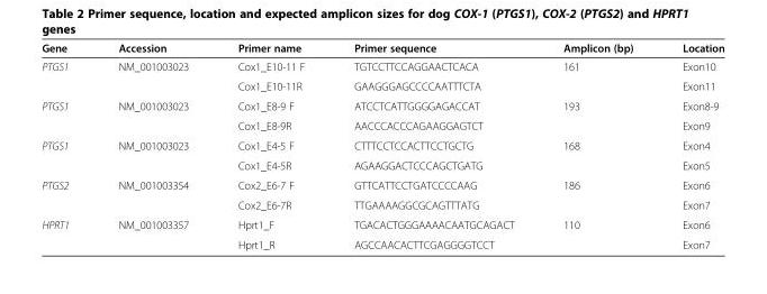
<table><thead><tr><td>Gene</td><td>Accession</td><td>Primer name</td><td>Primer sequence</td><td>Amplicon (bp)</td><td>Location</td></tr></thead><tbody><tr><td rowspan="2">PTGS1</td><td rowspan="2">NM_001003023</td><td>Cox1_E10-11 F</td><td>TGTCCTTCCAGGAACTCACA</td><td rowspan="2">161</td><td>Exon10</td></tr><tr><td>Cox1_E10-11R</td><td>GAAGGGAGCCCCAATTTCTA</td><td>Exon11</td></tr><tr><td rowspan="2">PTGS1</td><td rowspan="2">NM_001003023</td><td>Cox1_E8-9 F</td><td>ATCCTCATTGGGGAGACCAT</td><td rowspan="2">193</td><td>Exon8-9</td></tr><tr><td>Cox1_E8-9R</td><td>AACCCACCCAGAAGGAGTCT</td><td>Exon9</td></tr><tr><td rowspan="2">PTGS1</td><td rowspan="2">NM_001003023</td><td>Cox1_E4-5 F</td><td>CTTTCCTCCACTTCCTGCTG</td><td rowspan="2">168</td><td>Exon4</td></tr><tr><td>Cox1_E4-5R</td><td>AGAAGGACTCCCAGCTGATG</td><td>Exon5</td></tr><tr><td rowspan="2">PTGS2</td><td rowspan="2">NM_001003354</td><td>Cox2_E6-7 F</td><td>GTTCATTCCTGATCCCCAAG</td><td rowspan="2">186</td><td>Exon6</td></tr><tr><td>Cox2_E6-7R</td><td>TTGAAAAGGCGCAGTTTATG</td><td>Exon7</td></tr><tr><td rowspan="2">HPRT1</td><td rowspan="2">NM_001003357</td><td>Hprt1_F</td><td>TGACACTGGGAAAACAATGCAGACT</td><td rowspan="2">110</td><td>Exon6</td></tr><tr><td>Hprt1_R</td><td>AGCCAACACTTCGAGGGGTCCT</td><td>Exon7</td></tr></tbody></table>